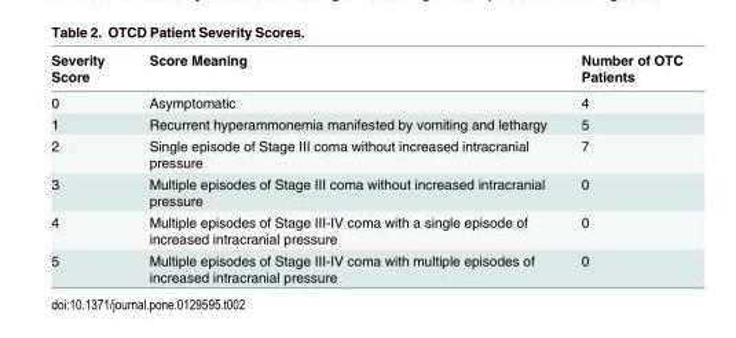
<table><thead><tr><td>Severity Score</td><td>Score Meaning</td><td>Number of OTC Patients</td></tr></thead><tbody><tr><td>0</td><td>Asymptomatic</td><td>4</td></tr><tr><td>1</td><td>Recurrent hyperammonemia manifested by vomiting and lethargy</td><td>5</td></tr><tr><td>2</td><td>Single episode of Stage III coma without increased intracranial pressure</td><td>7</td></tr><tr><td>3</td><td>Multiple episodes of Stage III coma without increased intracranial pressure</td><td>0</td></tr><tr><td>4</td><td>Multiple episodes of Stage III-IV coma with a single episode of increased intracranial pressure</td><td>0</td></tr><tr><td>5</td><td>Multiple episodes of Stage III-IV coma with multiple episodes of increased intracranial pressure</td><td>0</td></tr></tbody></table>